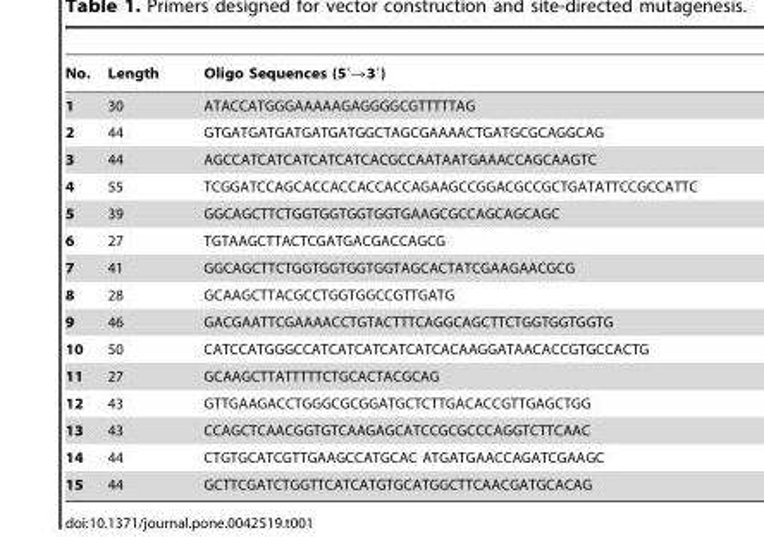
<table><thead><tr><td>No.</td><td>Length</td><td>Oligo Sequences (5′→3′)</td></tr></thead><tbody><tr><td>1</td><td>30</td><td>ATACCATGGGAAAAAGAGGGGCGTTTTTAG</td></tr><tr><td>2</td><td>44</td><td>GTGATGATGATGATGATGGCTAGCGAAAACTGATGCGCAGGCAG</td></tr><tr><td>3</td><td>44</td><td>AGCCATCATCATCATCATCACGCCAATAATGAAACCAGCAAGTC</td></tr><tr><td>4</td><td>55</td><td>TCGGATCCAGCACCACCACCACCAGAAGCCGGACGCCGCTGATATTCCGCCATTC</td></tr><tr><td>5</td><td>39</td><td>GGCAGCTTCTGGTGGTGGTGGTGAAGCGCCAGCAGCAGC</td></tr><tr><td>6</td><td>27</td><td>TGTAAGCTTACTCGATGACGACCAGCG</td></tr><tr><td>7</td><td>41</td><td>GGCAGCTTCTGGTGGTGGTGGTAGCACTATCGAAGAACGCG</td></tr><tr><td>8</td><td>28</td><td>GCAAGCTTACGCCTGGTGGCCGTTGATG</td></tr><tr><td>9</td><td>46</td><td>GACGAATTCGAAAACCTGTACTTTCAGGCAGCTTCTGGTGGTGGTG</td></tr><tr><td>10</td><td>50</td><td>CATCCATGGGCCATCATCATCATCATCACAAGGATAACACCGTGCCACTG</td></tr><tr><td>11</td><td>27</td><td>GCAAGCTTATTTTTCTGCACTACGCAG</td></tr><tr><td>12</td><td>43</td><td>GTTGAAGACCTGGGCGCGGATGCTCTTGACACCGTTGAGCTGG</td></tr><tr><td>13</td><td>43</td><td>CCAGCTCAACGGTGTCAAGAGCATCCGCGCCCAGGTCTTCAAC</td></tr><tr><td>14</td><td>44</td><td>CTGTGCATCGTTGAAGCCATGCAC ATGATGAACCAGATCGAAGC</td></tr><tr><td>15</td><td>44</td><td>GCTTCGATCTGGTTCATCATGTGCATGGCTTCAACGATGCACAG</td></tr></tbody></table>